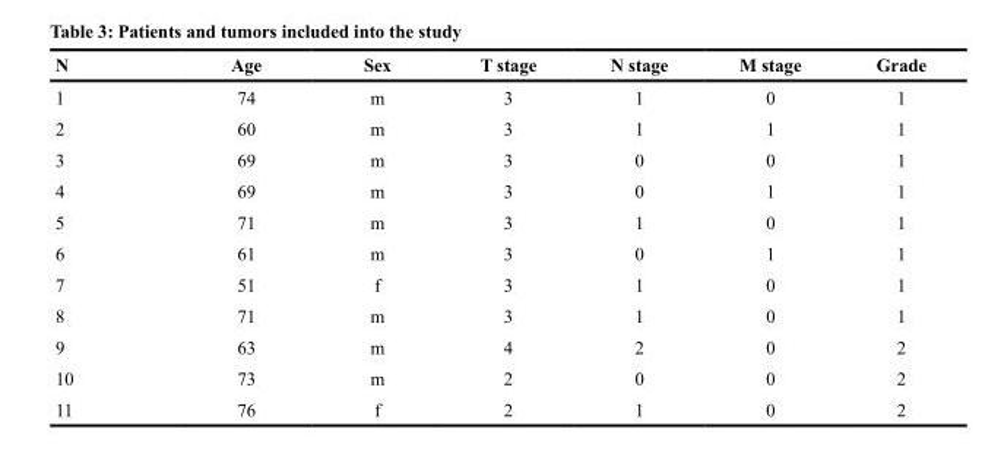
<table><thead><tr><td>N</td><td>Age</td><td>Sex</td><td>T stage</td><td>N stage</td><td>M stage</td><td>Grade</td></tr></thead><tbody><tr><td>1</td><td>74</td><td>m</td><td>3</td><td>1</td><td>0</td><td>1</td></tr><tr><td>2</td><td>60</td><td>m</td><td>3</td><td>1</td><td>1</td><td>1</td></tr><tr><td>3</td><td>69</td><td>m</td><td>3</td><td>0</td><td>0</td><td>1</td></tr><tr><td>4</td><td>69</td><td>m</td><td>3</td><td>0</td><td>1</td><td>1</td></tr><tr><td>5</td><td>71</td><td>m</td><td>3</td><td>1</td><td>0</td><td>1</td></tr><tr><td>6</td><td>61</td><td>m</td><td>3</td><td>0</td><td>1</td><td>1</td></tr><tr><td>7</td><td>51</td><td>f</td><td>3</td><td>1</td><td>0</td><td>1</td></tr><tr><td>8</td><td>71</td><td>m</td><td>3</td><td>1</td><td>0</td><td>1</td></tr><tr><td>9</td><td>63</td><td>m</td><td>4</td><td>2</td><td>0</td><td>2</td></tr><tr><td>10</td><td>73</td><td>m</td><td>2</td><td>0</td><td>0</td><td>2</td></tr><tr><td>11</td><td>76</td><td>f</td><td>2</td><td>1</td><td>0</td><td>2</td></tr></tbody></table>